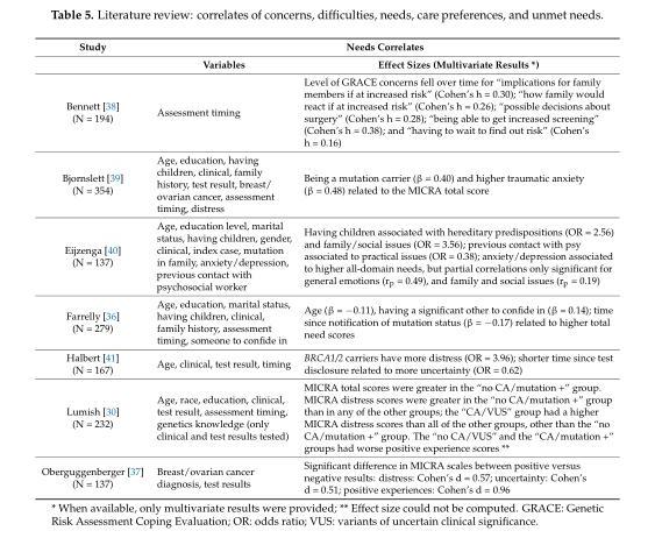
<table><thead><tr><td rowspan="2">Study</td><td colspan="2">Needs Correlates</td></tr><tr><td>Variables</td><td>Effect Sizes (Multivariate Results *)</td></tr></thead><tbody><tr><td>Bennett [38] (N = 194)</td><td>Assessment timing</td><td>Level of GRACE concerns fell over time for “implications for family members if at increased risk” (Cohen’s h = 0.30); “how family would react if at increased risk” (Cohen’s h = 0.26); “possible decisions about surgery” (Cohen’s h = 0.28); “being able to get increased screening” (Cohen’s h = 0.38); and “having to wait to find out risk” (Cohen’s h = 0.16)</td></tr><tr><td>Bjornslett [39] (N = 354)</td><td>Age, education, having children, clinical, family history, test result, breast/ ovarian cancer, assessment timing, distress</td><td>Being a mutation carrier (β = 0.40) and higher traumatic anxiety (β = 0.48) related to the MICRA total score</td></tr><tr><td>Eijzenga [40] (N = 137)</td><td>Age, education level, marital status, having children, gender, clinical, index case, mutation in family, anxiety/depression, previous contact with psychosocial worker</td><td>Having children associated with hereditary predispositions (OR = 2.56) and family/social issues (OR = 3.56); previous contact with psy associated to practical issues (OR = 0.38); anxiety/depression associated to higher all-domain needs, but partial correlations only significant for general emotions (r<sub>p</sub> = 0.49), and family and social issues (r<sub>p</sub> = 0.19)</td></tr><tr><td>Farrelly [36] (N = 279)</td><td>Age, education, marital status, having children, clinical, family history, assessment timing, someone to confide in</td><td>Age (β = −0.11), having a significant other to confide in (β = 0.14); time since notification of mutation status (β = −0.17) related to higher total need scores</td></tr><tr><td>Halbert [41] (N = 167)</td><td>Age, clinical, test result, timing</td><td>BRCA1/2 carriers have more distress (OR = 3.96); shorter time since test disclosure related to more uncertainty (OR = 0.62)</td></tr><tr><td>Lumish [30] (N = 232)</td><td>Age, race, education, clinical, test result, assessment timing, genetics knowledge (only clinical and test results tested)</td><td>MICRA total scores were greater in the “no CA/mutation +” group. MICRA distress scores were greater in the “no CA/mutation +” group than in any of the other groups; the “CA/VUS” group had a higher MICRA distress scores than all of the other groups, other than the “no CA/mutation +” group. The “no CA/VUS” and the “CA/mutation +” groups had worse positive experience scores **</td></tr><tr><td>Oberguggenberger [37] (N = 137)</td><td>Breast/ovarian cancer diagnosis, test results</td><td>Significant difference in MICRA scales between positive versus negative results: distress: Cohen’s d = 0.57; uncertainty: Cohen’s d = 0.51; positive experiences: Cohen’s d = 0.96</td></tr></tbody></table>